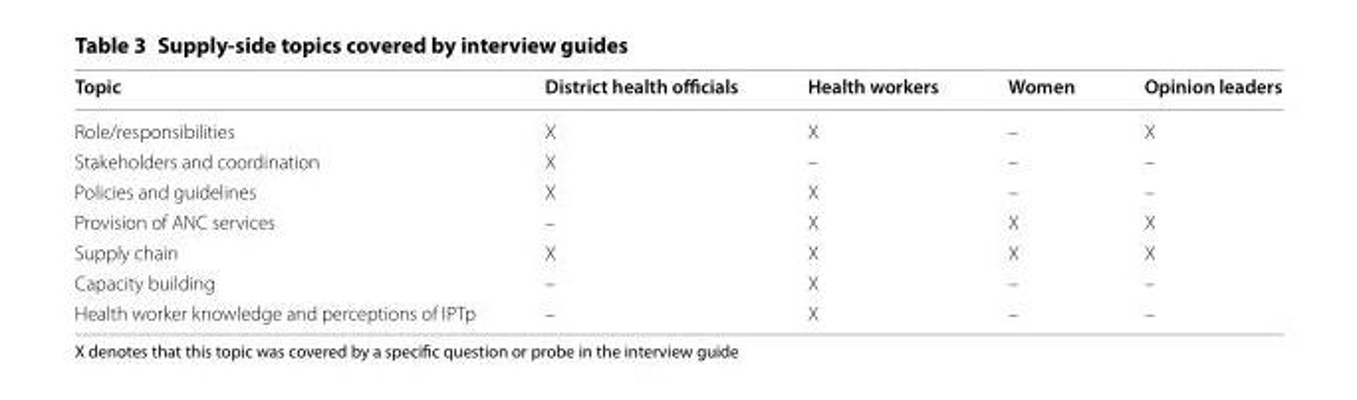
<table><thead><tr><td>Topic</td><td>District health officials</td><td>Health workers</td><td>Women</td><td>Opinion leaders</td></tr></thead><tbody><tr><td>Role/responsibilities</td><td>X</td><td>X</td><td>–</td><td>X</td></tr><tr><td>Stakeholders and coordination</td><td>X</td><td>–</td><td>–</td><td>–</td></tr><tr><td>Policies and guidelines</td><td>X</td><td>X</td><td>–</td><td>–</td></tr><tr><td>Provision of ANC services</td><td>–</td><td>X</td><td>X</td><td>X</td></tr><tr><td>Supply chain</td><td>X</td><td>X</td><td>X</td><td>X</td></tr><tr><td>Capacity building</td><td>–</td><td>X</td><td>–</td><td>–</td></tr><tr><td>Health worker knowledge and perceptions of IPTp</td><td>–</td><td>X</td><td>–</td><td>–</td></tr></tbody></table>